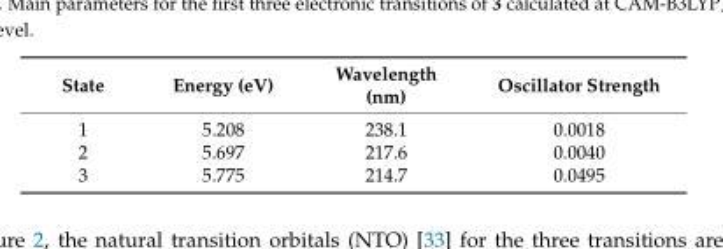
<table><thead><tr><td>State</td><td>Energy (eV)</td><td>Wavelength (nm)</td><td>Oscillator Strength</td></tr></thead><tbody><tr><td>1</td><td>5.208</td><td>238.1</td><td>0.0018</td></tr><tr><td>2</td><td>5.697</td><td>217.6</td><td>0.0040</td></tr><tr><td>3</td><td>5.775</td><td>214.7</td><td>0.0495</td></tr></tbody></table>